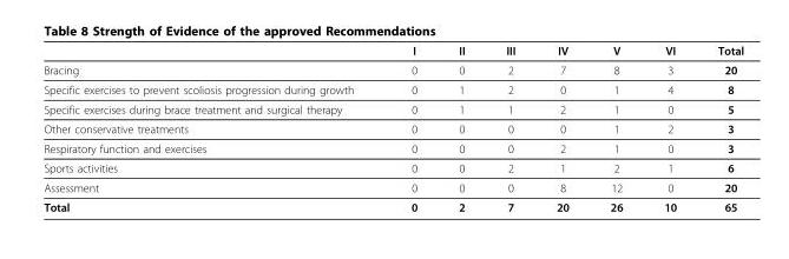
<table><thead><tr><td></td><td>I</td><td>II</td><td>III</td><td>IV</td><td>V</td><td>VI</td><td>Total</td></tr></thead><tbody><tr><td>Bracing</td><td>0</td><td>0</td><td>2</td><td>7</td><td>8</td><td>3</td><td>20</td></tr><tr><td>Specific exercises to prevent scoliosis progression during growth</td><td>0</td><td>1</td><td>2</td><td>0</td><td>1</td><td>4</td><td>8</td></tr><tr><td>Specific exercises during brace treatment and surgical therapy</td><td>0</td><td>1</td><td>1</td><td>2</td><td>1</td><td>0</td><td>5</td></tr><tr><td>Other conservative treatments</td><td>0</td><td>0</td><td>0</td><td>0</td><td>1</td><td>2</td><td>3</td></tr><tr><td>Respiratory function and exercises</td><td>0</td><td>0</td><td>0</td><td>2</td><td>1</td><td>0</td><td>3</td></tr><tr><td>Sports activities</td><td>0</td><td>0</td><td>2</td><td>1</td><td>2</td><td>1</td><td>6</td></tr><tr><td>Assessment</td><td>0</td><td>0</td><td>0</td><td>8</td><td>12</td><td>0</td><td>20</td></tr><tr><td>Total</td><td>0</td><td>2</td><td>7</td><td>20</td><td>26</td><td>10</td><td>65</td></tr></tbody></table>